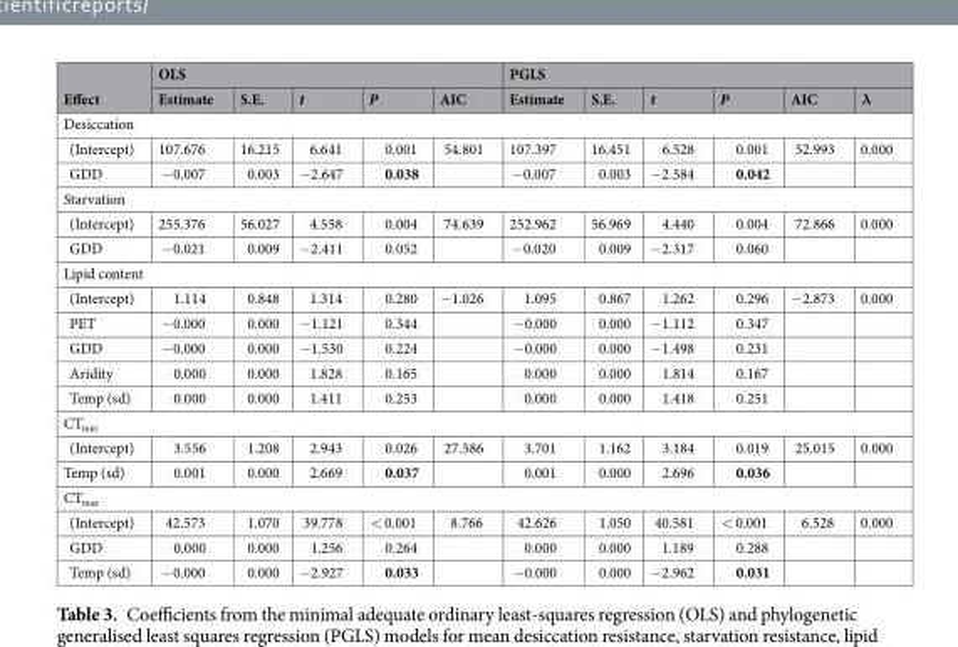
<table><thead><tr><td rowspan="2">Effect</td><td colspan="5">OLS</td><td colspan="6">PGLS</td></tr><tr><td>Estimate</td><td>S.E.</td><td>t</td><td>P</td><td>AIC</td><td>Estimate</td><td>S.E.</td><td>t</td><td>P</td><td>AIC</td><td>λ</td></tr></thead><tbody><tr><td colspan="12">Desiccation</td></tr><tr><td>(Intercept)</td><td>107.676</td><td>16.215</td><td>6.641</td><td>0.001</td><td>54.801</td><td>107.397</td><td>16.451</td><td>6.528</td><td>0.001</td><td>52.993</td><td>0.000</td></tr><tr><td>GDD</td><td>−0.007</td><td>0.003</td><td>−2.647</td><td>0.038</td><td></td><td>−0.007</td><td>0.003</td><td>−2.584</td><td>0.042</td><td></td><td></td></tr><tr><td colspan="12">Starvation</td></tr><tr><td>(Intercept)</td><td>255.376</td><td>56.027</td><td>4.558</td><td>0.004</td><td>74.639</td><td>252.962</td><td>56.969</td><td>4.440</td><td>0.004</td><td>72.866</td><td>0.000</td></tr><tr><td>GDD</td><td>−0.021</td><td>0.009</td><td>−2.411</td><td>0.052</td><td></td><td>−0.020</td><td>0.009</td><td>−2.317</td><td>0.060</td><td></td><td></td></tr><tr><td colspan="12">Lipid content</td></tr><tr><td>(Intercept)</td><td>1.114</td><td>0.848</td><td>1.314</td><td>0.280</td><td>−1.026</td><td>1.095</td><td>0.867</td><td>1.262</td><td>0.296</td><td>−2.873</td><td>0.000</td></tr><tr><td>PET</td><td>−0.000</td><td>0.000</td><td>−1.121</td><td>0.344</td><td></td><td>−0.000</td><td>0.000</td><td>−1.112</td><td>0.347</td><td></td><td></td></tr><tr><td>GDD</td><td>−0.000</td><td>0.000</td><td>−1.530</td><td>0.224</td><td></td><td>−0.000</td><td>0.000</td><td>−1.498</td><td>0.231</td><td></td><td></td></tr><tr><td>Aridity</td><td>0.000</td><td>0.000</td><td>1.828</td><td>0.165</td><td></td><td>0.000</td><td>0.000</td><td>1.814</td><td>0.167</td><td></td><td></td></tr><tr><td>Temp (sd)</td><td>0.000</td><td>0.000</td><td>1.411</td><td>0.253</td><td></td><td>0.000</td><td>0.000</td><td>1.418</td><td>0.251</td><td></td><td></td></tr><tr><td colspan="12">CT<sub>min</sub></td></tr><tr><td>(Intercept)</td><td>3.556</td><td>1.208</td><td>2.943</td><td>0.026</td><td>27.586</td><td>3.701</td><td>1.162</td><td>3.184</td><td>0.019</td><td>25.015</td><td>0.000</td></tr><tr><td>Temp (sd)</td><td>0.001</td><td>0.000</td><td>2.669</td><td>0.037</td><td></td><td>0.001</td><td>0.000</td><td>2.696</td><td>0.036</td><td></td><td></td></tr><tr><td colspan="12">CT<sub>max</sub></td></tr><tr><td>(Intercept)</td><td>42.573</td><td>1.070</td><td>39.778</td><td>&lt; 0.001</td><td>8.766</td><td>42.626</td><td>1.050</td><td>40.581</td><td>&lt; 0.001</td><td>6.528</td><td>0.000</td></tr><tr><td>GDD</td><td>0.000</td><td>0.000</td><td>1.256</td><td>0.264</td><td></td><td>0.000</td><td>0.000</td><td>1.189</td><td>0.288</td><td></td><td></td></tr><tr><td>Temp (sd)</td><td>−0.000</td><td>0.000</td><td>−2.927</td><td>0.033</td><td></td><td>−0.000</td><td>0.000</td><td>−2.962</td><td>0.031</td><td></td><td></td></tr></tbody></table>